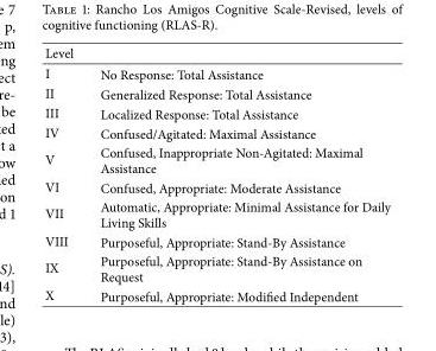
<table><thead><tr><td>Level</td><td></td></tr></thead><tbody><tr><td>I</td><td>No Response: Total Assistance</td></tr><tr><td>II</td><td>Generalized Response: Total Assistance</td></tr><tr><td>III</td><td>Localized Response: Total Assistance</td></tr><tr><td>IV</td><td>Confused/Agitated: Maximal Assistance</td></tr><tr><td>V</td><td>Confused, Inappropriate Non-Agitated: Maximal Assistance</td></tr><tr><td>VI</td><td>Confused, Appropriate: Moderate Assistance</td></tr><tr><td>VII</td><td>Automatic, Appropriate: Minimal Assistance for Daily Living Skills</td></tr><tr><td>VIII</td><td>Purposeful, Appropriate: Stand-By Assistance</td></tr><tr><td>IX</td><td>Purposeful, Appropriate: Stand-By Assistance on Request</td></tr><tr><td>X</td><td>Purposeful, Appropriate: Modified Independent</td></tr></tbody></table>